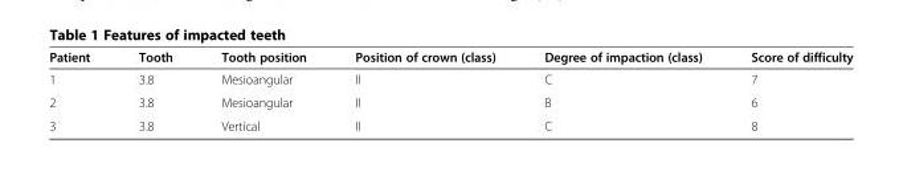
<table><thead><tr><td>Patient</td><td>Tooth</td><td>Tooth position</td><td>Position of crown (class)</td><td>Degree of impaction (class)</td><td>Score of difficulty</td></tr></thead><tbody><tr><td>1</td><td>3.8</td><td>Mesioangular</td><td>II</td><td>C</td><td>7</td></tr><tr><td>2</td><td>3.8</td><td>Mesioangular</td><td>II</td><td>B</td><td>6</td></tr><tr><td>3</td><td>3.8</td><td>Vertical</td><td>II</td><td>C</td><td>8</td></tr></tbody></table>